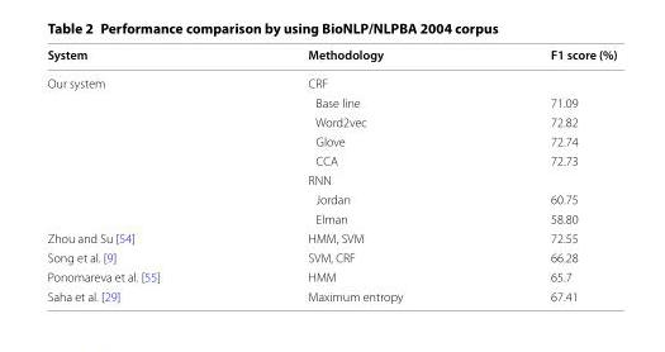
<table><thead><tr><td>System</td><td>Methodology</td><td>F1 score (%)</td></tr></thead><tbody><tr><td rowspan="8">Our system</td><td colspan="2">CRF</td></tr><tr><td>Base line</td><td>71.09</td></tr><tr><td>Word2vec</td><td>72.82</td></tr><tr><td>Glove</td><td>72.74</td></tr><tr><td>CCA</td><td>72.73</td></tr><tr><td colspan="2">RNN</td></tr><tr><td>Jordan</td><td>60.75</td></tr><tr><td>Elman</td><td>58.80</td></tr><tr><td>Zhou and Su [54]</td><td>HMM, SVM</td><td>72.55</td></tr><tr><td>Song et al. [9]</td><td>SVM, CRF</td><td>66.28</td></tr><tr><td>Ponomareva et al. [55]</td><td>HMM</td><td>65.7</td></tr><tr><td>Saha et al. [29]</td><td>Maximum entropy</td><td>67.41</td></tr></tbody></table>